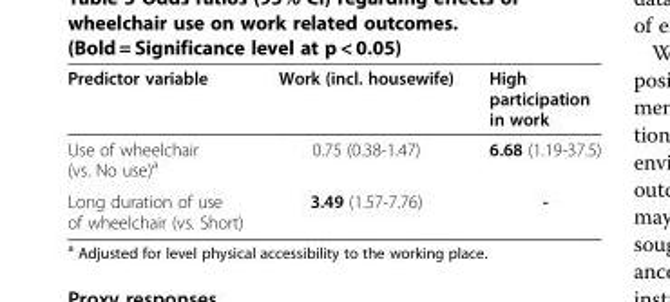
<table><thead><tr><td>Predictor variable</td><td>Work (incl. housewife)</td><td>High participation in work</td></tr></thead><tbody><tr><td>Use of wheelchair (vs. No use)<sup>a</sup></td><td>0.75 (0.38-1.47)</td><td>6.68 (1.19-37.5)</td></tr><tr><td>Long duration of use of wheelchair (vs. Short)</td><td>3.49 (1.57-7.76)</td><td>-</td></tr></tbody></table>